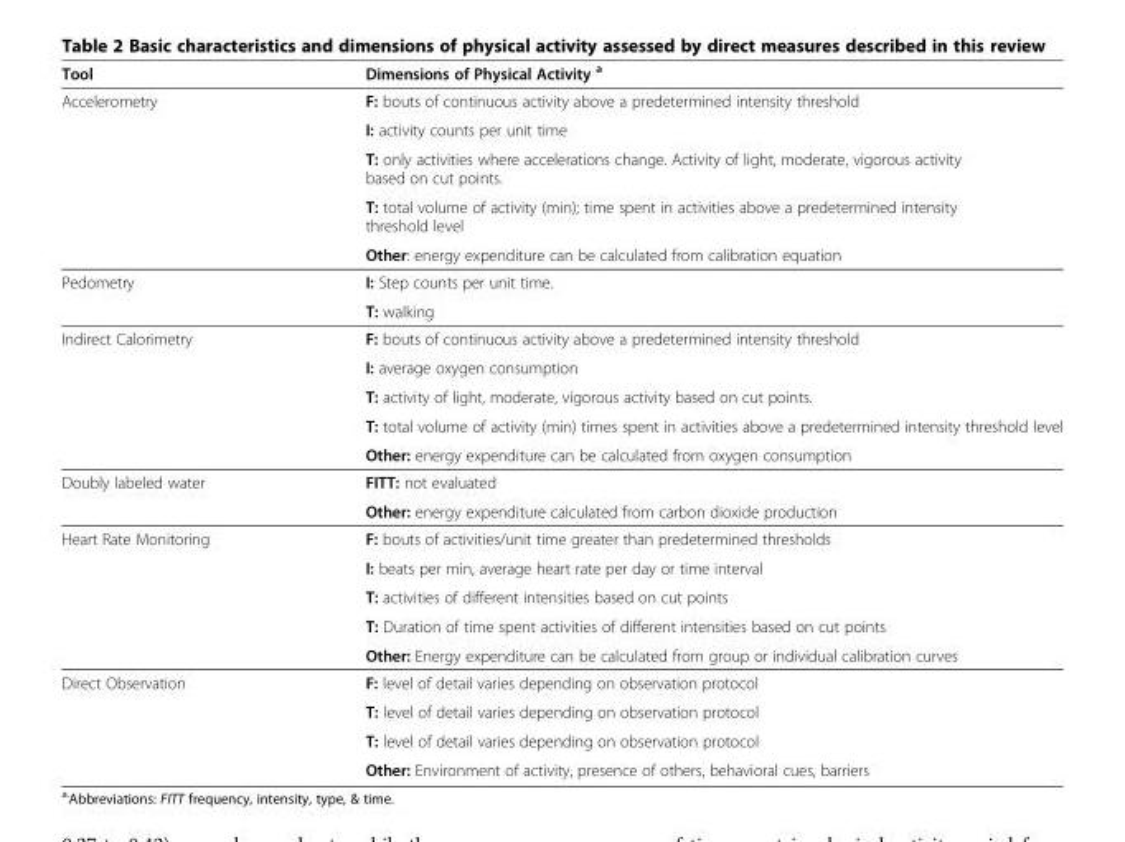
<table><thead><tr><td>Tool</td><td>Dimensions of Physical Activity <sup>a</sup></td></tr></thead><tbody><tr><td rowspan="5">Accelerometry</td><td>F: bouts of continuous activity above a predetermined intensity threshold</td></tr><tr><td>I: activity counts per unit time</td></tr><tr><td>T: only activities where accelerations change. Activity of light, moderate, vigorous activity based on cut points.</td></tr><tr><td>T: total volume of activity (min); time spent in activities above a predetermined intensity threshold level</td></tr><tr><td>Other: energy expenditure can be calculated from calibration equation</td></tr><tr><td rowspan="2">Pedometry</td><td>I: Step counts per unit time.</td></tr><tr><td>T: walking</td></tr><tr><td rowspan="5">Indirect Calorimetry</td><td>F: bouts of continuous activity above a predetermined intensity threshold</td></tr><tr><td>I: average oxygen consumption</td></tr><tr><td>T: activity of light, moderate, vigorous activity based on cut points.</td></tr><tr><td>T: total volume of activity (min) times spent in activities above a predetermined intensity threshold level</td></tr><tr><td>Other: energy expenditure can be calculated from oxygen consumption</td></tr><tr><td rowspan="2">Doubly labeled water</td><td>FITT: not evaluated</td></tr><tr><td>Other: energy expenditure calculated from carbon dioxide production</td></tr><tr><td rowspan="5">Heart Rate Monitoring</td><td>F: bouts of activities/unit time greater than predetermined thresholds</td></tr><tr><td>I: beats per min, average heart rate per day or time interval</td></tr><tr><td>T: activities of different intensities based on cut points</td></tr><tr><td>T: Duration of time spent activities of different intensities based on cut points</td></tr><tr><td>Other: Energy expenditure can be calculated from group or individual calibration curves</td></tr><tr><td rowspan="4">Direct Observation</td><td>F: level of detail varies depending on observation protocol</td></tr><tr><td>T: level of detail varies depending on observation protocol</td></tr><tr><td>T: level of detail varies depending on observation protocol</td></tr><tr><td>Other: Environment of activity, presence of others, behavioral cues, barriers</td></tr></tbody></table>